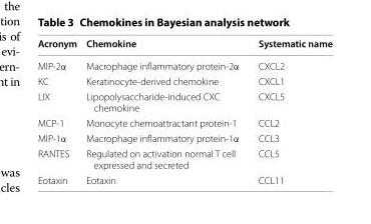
<table><thead><tr><td>Acronym</td><td>Chemokine</td><td>Systematic name</td></tr></thead><tbody><tr><td>MIP-2α</td><td>Macrophage inflammatory protein-2α</td><td>CXCL2</td></tr><tr><td>KC</td><td>Keratinocyte-derived chemokine</td><td>CXCL1</td></tr><tr><td>LIX</td><td>Lipopolysaccharide-induced CXC chemokine</td><td>CXCL5</td></tr><tr><td>MCP-1</td><td>Monocyte chemoattractant protein-1</td><td>CCL2</td></tr><tr><td>MIP-1α</td><td>Macrophage inflammatory protein-1α</td><td>CCL3</td></tr><tr><td>RANTES</td><td>Regulated on activation normal T cell expressed and secreted</td><td>CCL5</td></tr><tr><td>Eotaxin</td><td>Eotaxin</td><td>CCL11</td></tr></tbody></table>